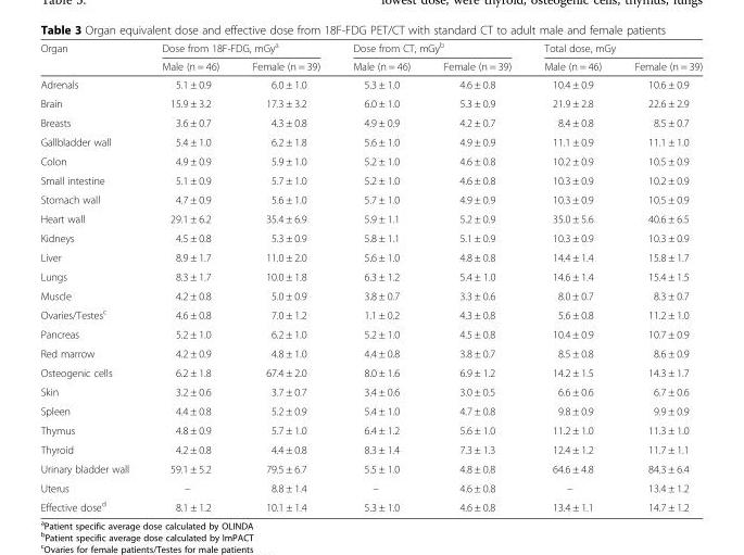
<table><thead><tr><td rowspan="2">Organ</td><td colspan="2">Dose from 18F-FDG, mGy<sup>a</sup></td><td colspan="2">Dose from CT, mGy<sup>b</sup></td><td colspan="2">Total dose, mGy</td></tr><tr><td>Male (n = 46)</td><td>Female (n = 39)</td><td>Male (n = 46)</td><td>Female (n = 39)</td><td>Male (n = 46)</td><td>Female (n = 39)</td></tr></thead><tbody><tr><td>Adrenals</td><td>5.1 ± 0.9</td><td>6.0 ± 1.0</td><td>5.3 ± 1.0</td><td>4.6 ± 0.8</td><td>10.4 ± 0.9</td><td>10.6 ± 0.9</td></tr><tr><td>Brain</td><td>15.9 ± 3.2</td><td>17.3 ± 3.2</td><td>6.0 ± 1.0</td><td>5.3 ± 0.9</td><td>21.9 ± 2.8</td><td>22.6 ± 2.9</td></tr><tr><td>Breasts</td><td>3.6 ± 0.7</td><td>4.3 ± 0.8</td><td>4.9 ± 0.9</td><td>4.2 ± 0.7</td><td>8.4 ± 0.8</td><td>8.5 ± 0.7</td></tr><tr><td>Gallbladder wall</td><td>5.4 ± 1.0</td><td>6.2 ± 1.8</td><td>5.6 ± 1.0</td><td>4.9 ± 0.9</td><td>11.1 ± 0.9</td><td>11.1 ± 1.0</td></tr><tr><td>Colon</td><td>4.9 ± 0.9</td><td>5.9 ± 1.0</td><td>5.2 ± 1.0</td><td>4.6 ± 0.8</td><td>10.2 ± 0.9</td><td>10.5 ± 0.9</td></tr><tr><td>Small intestine</td><td>5.1 ± 0.9</td><td>5.7 ± 1.0</td><td>5.2 ± 1.0</td><td>4.6 ± 0.8</td><td>10.3 ± 0.9</td><td>10.2 ± 0.9</td></tr><tr><td>Stomach wall</td><td>4.7 ± 0.9</td><td>5.6 ± 1.0</td><td>5.7 ± 1.0</td><td>4.9 ± 0.9</td><td>10.3 ± 0.9</td><td>10.5 ± 0.9</td></tr><tr><td>Heart wall</td><td>29.1 ± 6.2</td><td>35.4 ± 6.9</td><td>5.9 ± 1.1</td><td>5.2 ± 0.9</td><td>35.0 ± 5.6</td><td>40.6 ± 6.5</td></tr><tr><td>Kidneys</td><td>4.5 ± 0.8</td><td>5.3 ± 0.9</td><td>5.8 ± 1.1</td><td>5.1 ± 0.9</td><td>10.3 ± 0.9</td><td>10.3 ± 0.9</td></tr><tr><td>Liver</td><td>8.9 ± 1.7</td><td>11.0 ± 2.0</td><td>5.6 ± 1.0</td><td>4.8 ± 0.8</td><td>14.4 ± 1.4</td><td>15.8 ± 1.7</td></tr><tr><td>Lungs</td><td>8.3 ± 1.7</td><td>10.0 ± 1.8</td><td>6.3 ± 1.2</td><td>5.4 ± 1.0</td><td>14.6 ± 1.4</td><td>15.4 ± 1.5</td></tr><tr><td>Muscle</td><td>4.2 ± 0.8</td><td>5.0 ± 0.9</td><td>3.8 ± 0.7</td><td>3.3 ± 0.6</td><td>8.0 ± 0.7</td><td>8.3 ± 0.7</td></tr><tr><td>Ovaries/Testes<sup>c</sup></td><td>4.6 ± 0.8</td><td>7.0 ± 1.2</td><td>1.1 ± 0.2</td><td>4.3 ± 0.8</td><td>5.6 ± 0.8</td><td>11.2 ± 1.0</td></tr><tr><td>Pancreas</td><td>5.2 ± 1.0</td><td>6.2 ± 1.0</td><td>5.2 ± 1.0</td><td>4.5 ± 0.8</td><td>10.4 ± 0.9</td><td>10.7 ± 0.9</td></tr><tr><td>Red marrow</td><td>4.2 ± 0.9</td><td>4.8 ± 1.0</td><td>4.4 ± 0.8</td><td>3.8 ± 0.7</td><td>8.5 ± 0.8</td><td>8.6 ± 0.9</td></tr><tr><td>Osteogenic cells</td><td>6.2 ± 1.8</td><td>67.4 ± 2.0</td><td>8.0 ± 1.6</td><td>6.9 ± 1.2</td><td>14.2 ± 1.5</td><td>14.3 ± 1.7</td></tr><tr><td>Skin</td><td>3.2 ± 0.6</td><td>3.7 ± 0.7</td><td>3.4 ± 0.6</td><td>3.0 ± 0.5</td><td>6.6 ± 0.6</td><td>6.7 ± 0.6</td></tr><tr><td>Spleen</td><td>4.4 ± 0.8</td><td>5.2 ± 0.9</td><td>5.4 ± 1.0</td><td>4.7 ± 0.8</td><td>9.8 ± 0.9</td><td>9.9 ± 0.9</td></tr><tr><td>Thymus</td><td>4.8 ± 0.9</td><td>5.7 ± 1.0</td><td>6.4 ± 1.2</td><td>5.6 ± 1.0</td><td>11.2 ± 1.0</td><td>11.3 ± 1.0</td></tr><tr><td>Thyroid</td><td>4.2 ± 0.8</td><td>4.4 ± 0.8</td><td>8.3 ± 1.4</td><td>7.3 ± 1.3</td><td>12.4 ± 1.2</td><td>11.7 ± 1.1</td></tr><tr><td>Urinary bladder wall</td><td>59.1 ± 5.2</td><td>79.5 ± 6.7</td><td>5.5 ± 1.0</td><td>4.8 ± 0.8</td><td>64.6 ± 4.8</td><td>84.3 ± 6.4</td></tr><tr><td>Uterus</td><td>–</td><td>8.8 ± 1.4</td><td>–</td><td>4.6 ± 0.8</td><td>–</td><td>13.4 ± 1.2</td></tr><tr><td>Effective dose<sup>d</sup></td><td>8.1 ± 1.2</td><td>10.1 ± 1.4</td><td>5.3 ± 1.0</td><td>4.6 ± 0.8</td><td>13.4 ± 1.1</td><td>14.7 ± 1.2</td></tr></tbody></table>